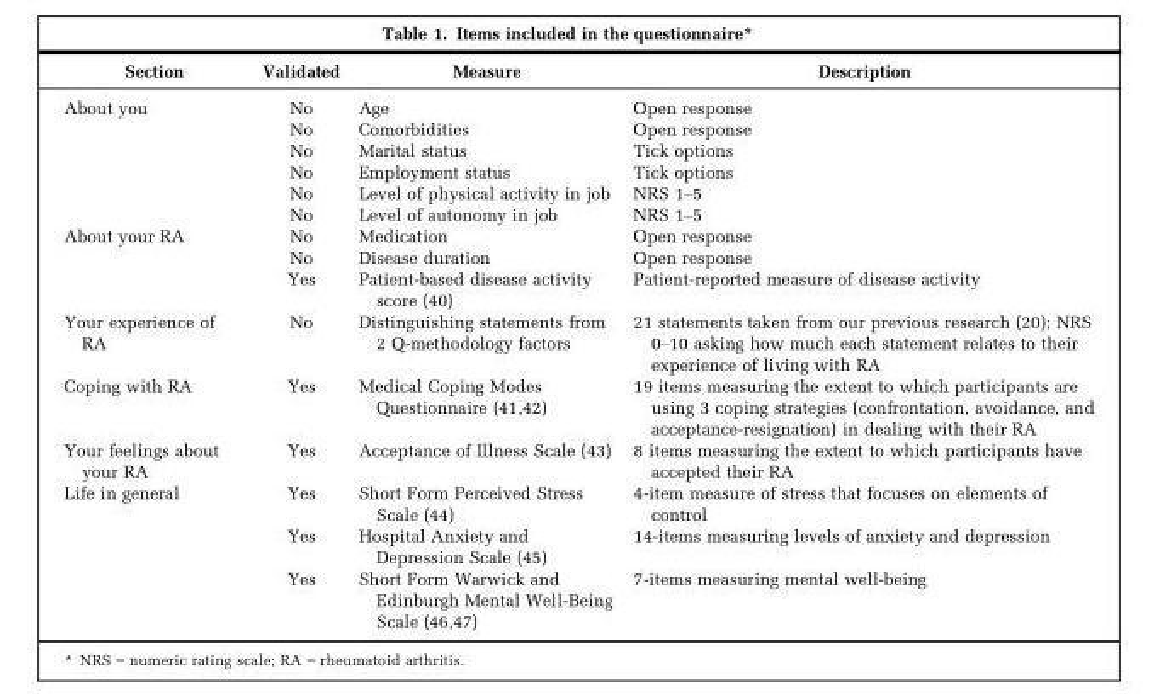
<table><thead><tr><td>Section</td><td>Validated</td><td>Measure</td><td>Description</td></tr></thead><tbody><tr><td rowspan="6">About you</td><td>No</td><td>Age</td><td>Open response</td></tr><tr><td>No</td><td>Comorbidities</td><td>Open response</td></tr><tr><td>No</td><td>Marital status</td><td>Tick options</td></tr><tr><td>No</td><td>Employment status</td><td>Tick options</td></tr><tr><td>No</td><td>Level of physical activity in job</td><td>NRS 1–5</td></tr><tr><td>No</td><td>Level of autonomy in job</td><td>NRS 1–5</td></tr><tr><td rowspan="3">About your RA</td><td>No</td><td>Medication</td><td>Open response</td></tr><tr><td>No</td><td>Disease duration</td><td>Open response</td></tr><tr><td>Yes</td><td>Patient-based disease activity score (40)</td><td>Patient-reported measure of disease activity</td></tr><tr><td>Your experience of RA</td><td>No</td><td>Distinguishing statements from 2 Q-methodology factors</td><td>21 statements taken from our previous research (20); NRS 0–10 asking how much each statement relates to their experience of living with RA</td></tr><tr><td>Coping with RA</td><td>Yes</td><td>Medical Coping Modes Questionnaire (41,42)</td><td>19 items measuring the extent to which participants are using 3 coping strategies (confrontation, avoidance, and acceptance-resignation) in dealing with their RA</td></tr><tr><td>Your feelings about your RA</td><td>Yes</td><td>Acceptance of Illness Scale (43)</td><td>8 items measuring the extent to which participants have accepted their RA</td></tr><tr><td rowspan="3">Life in general</td><td>Yes</td><td>Short Form Perceived Stress Scale (44)</td><td>4-item measure of stress that focuses on elements of control</td></tr><tr><td>Yes</td><td>Hospital Anxiety and Depression Scale (45)</td><td>14-items measuring levels of anxiety and depression</td></tr><tr><td>Yes</td><td>Short Form Warwick and Edinburgh Mental Well-Being Scale (46,47)</td><td>7-items measuring mental well-being</td></tr></tbody></table>